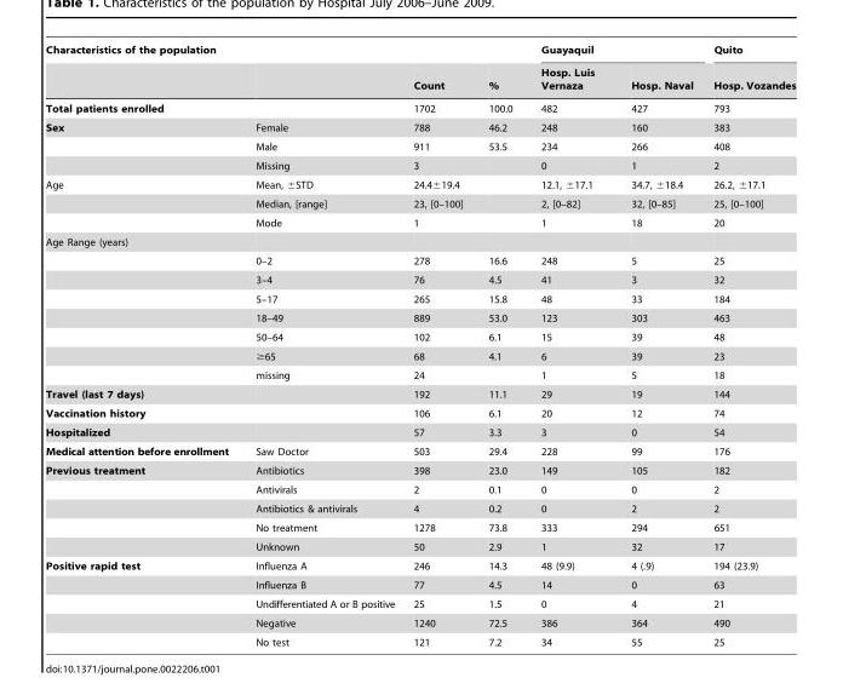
<table><thead><tr><td colspan="2">Characteristics of the population</td><td rowspan="2">Count</td><td rowspan="2">%</td><td colspan="2">Guayaquil</td><td rowspan="2">Quito Hosp. Vozandes</td></tr><tr><td></td><td></td><td>Hosp. Luis Vernaza</td><td>Hosp. Naval</td></tr></thead><tbody><tr><td>Total patients enrolled</td><td></td><td>1702</td><td>100.0</td><td>482</td><td>427</td><td>793</td></tr><tr><td rowspan="3">Sex</td><td>Female</td><td>788</td><td>46.2</td><td>248</td><td>160</td><td>383</td></tr><tr><td>Male</td><td>911</td><td>53.5</td><td>234</td><td>266</td><td>408</td></tr><tr><td>Missing</td><td>3</td><td></td><td>0</td><td>1</td><td>2</td></tr><tr><td rowspan="3">Age</td><td>Mean, ±STD</td><td>24.4±19.4</td><td></td><td>12.1, ±17.1</td><td>34.7, ±18.4</td><td>26.2, ±17.1</td></tr><tr><td>Median, [range]</td><td>23, [0–100]</td><td></td><td>2, [0–82]</td><td>32, [0–85]</td><td>25, [0–100]</td></tr><tr><td>Mode</td><td>1</td><td></td><td>1</td><td>18</td><td>20</td></tr><tr><td colspan="7">Age Range (years)</td></tr><tr><td></td><td>0–2</td><td>278</td><td>16.6</td><td>248</td><td>5</td><td>25</td></tr><tr><td></td><td>3–4</td><td>76</td><td>4.5</td><td>41</td><td>3</td><td>32</td></tr><tr><td></td><td>5–17</td><td>265</td><td>15.8</td><td>48</td><td>33</td><td>184</td></tr><tr><td></td><td>18–49</td><td>889</td><td>53.0</td><td>123</td><td>303</td><td>463</td></tr><tr><td></td><td>50–64</td><td>102</td><td>6.1</td><td>15</td><td>39</td><td>48</td></tr><tr><td></td><td>≥65</td><td>68</td><td>4.1</td><td>6</td><td>39</td><td>23</td></tr><tr><td></td><td>missing</td><td>24</td><td></td><td>1</td><td>5</td><td>18</td></tr><tr><td>Travel (last 7 days)</td><td></td><td>192</td><td>11.1</td><td>29</td><td>19</td><td>144</td></tr><tr><td>Vaccination history</td><td></td><td>106</td><td>6.1</td><td>20</td><td>12</td><td>74</td></tr><tr><td>Hospitalized</td><td></td><td>57</td><td>3.3</td><td>3</td><td>0</td><td>54</td></tr><tr><td>Medical attention before enrollment</td><td>Saw Doctor</td><td>503</td><td>29.4</td><td>228</td><td>99</td><td>176</td></tr><tr><td rowspan="5">Previous treatment</td><td>Antibiotics</td><td>398</td><td>23.0</td><td>149</td><td>105</td><td>182</td></tr><tr><td>Antivirals</td><td>2</td><td>0.1</td><td>0</td><td>0</td><td>2</td></tr><tr><td>Antibiotics &amp; antivirals</td><td>4</td><td>0.2</td><td>0</td><td>2</td><td>2</td></tr><tr><td>No treatment</td><td>1278</td><td>73.8</td><td>333</td><td>294</td><td>651</td></tr><tr><td>Unknown</td><td>50</td><td>2.9</td><td>1</td><td>32</td><td>17</td></tr><tr><td rowspan="5">Positive rapid test</td><td>Influenza A</td><td>246</td><td>14.3</td><td>48 (9.9)</td><td>4 (.9)</td><td>194 (23.9)</td></tr><tr><td>Influenza B</td><td>77</td><td>4.5</td><td>14</td><td>0</td><td>63</td></tr><tr><td>Undifferentiated A or B positive</td><td>25</td><td>1.5</td><td>0</td><td>4</td><td>21</td></tr><tr><td>Negative</td><td>1240</td><td>72.5</td><td>386</td><td>364</td><td>490</td></tr><tr><td>No test</td><td>121</td><td>7.2</td><td>34</td><td>55</td><td>25</td></tr></tbody></table>